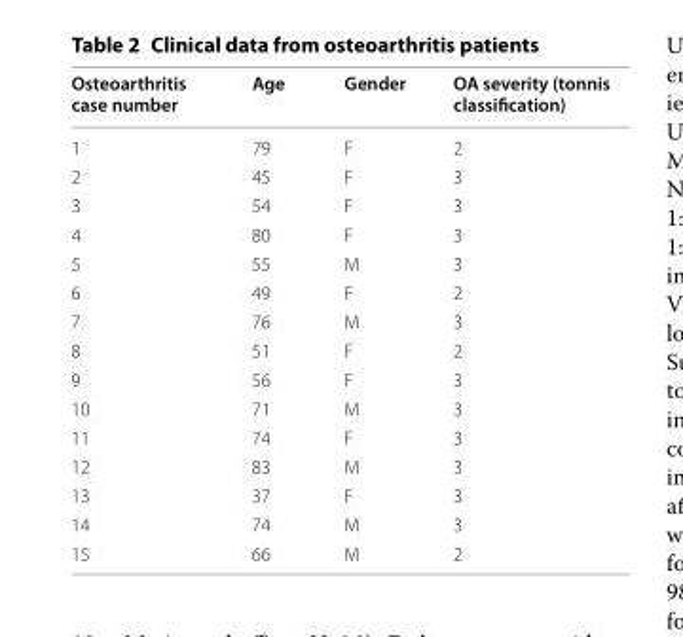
<table><thead><tr><td>Osteoarthritis case number</td><td>Age</td><td>Gender</td><td>OA severity (tonnis classification)</td></tr></thead><tbody><tr><td>1</td><td>79</td><td>F</td><td>2</td></tr><tr><td>2</td><td>45</td><td>F</td><td>3</td></tr><tr><td>3</td><td>54</td><td>F</td><td>3</td></tr><tr><td>4</td><td>80</td><td>F</td><td>3</td></tr><tr><td>5</td><td>55</td><td>M</td><td>3</td></tr><tr><td>6</td><td>49</td><td>F</td><td>2</td></tr><tr><td>7</td><td>76</td><td>M</td><td>3</td></tr><tr><td>8</td><td>51</td><td>F</td><td>2</td></tr><tr><td>9</td><td>56</td><td>F</td><td>3</td></tr><tr><td>10</td><td>71</td><td>M</td><td>3</td></tr><tr><td>11</td><td>74</td><td>F</td><td>3</td></tr><tr><td>12</td><td>83</td><td>M</td><td>3</td></tr><tr><td>13</td><td>37</td><td>F</td><td>3</td></tr><tr><td>14</td><td>74</td><td>M</td><td>3</td></tr><tr><td>15</td><td>66</td><td>M</td><td>2</td></tr></tbody></table>